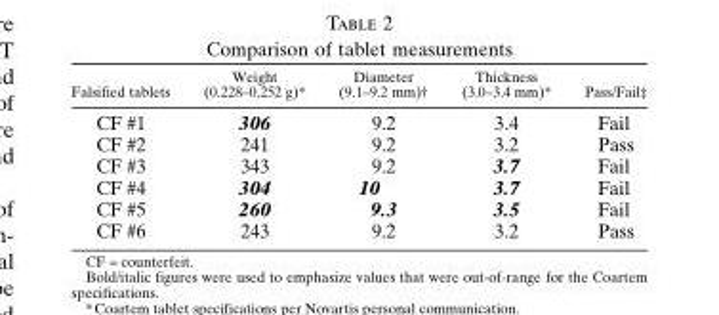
<table><thead><tr><td>Falsified tablets</td><td>Weight (0.228–0.252 g)*</td><td>Diameter (9.1–9.2 mm)†</td><td>Thickness (3.0–3.4 mm)*</td><td>Pass/Fail‡</td></tr></thead><tbody><tr><td>CF #1</td><td>306</td><td>9.2</td><td>3.4</td><td>Fail</td></tr><tr><td>CF #2</td><td>241</td><td>9.2</td><td>3.2</td><td>Pass</td></tr><tr><td>CF #3</td><td>343</td><td>9.2</td><td>3.7</td><td>Fail</td></tr><tr><td>CF #4</td><td>304</td><td>10</td><td>3.7</td><td>Fail</td></tr><tr><td>CF #5</td><td>260</td><td>9.3</td><td>3.5</td><td>Fail</td></tr><tr><td>CF #6</td><td>243</td><td>9.2</td><td>3.2</td><td>Pass</td></tr></tbody></table>